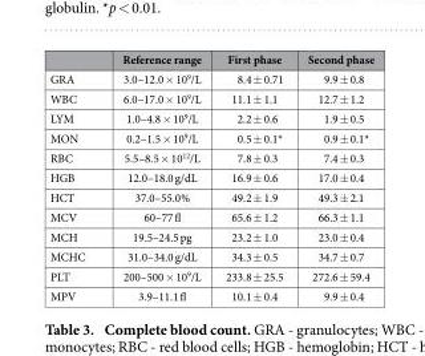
<table><thead><tr><td></td><td>Reference range</td><td>First phase</td><td>Second phase</td></tr></thead><tbody><tr><td>GRA</td><td>3.0–12.0 × 10<sup>9</sup>/L</td><td>8.4 ± 0.71</td><td>9.9 ± 0.8</td></tr><tr><td>WBC</td><td>6.0–17.0 × 10<sup>9</sup>/L</td><td>11.1 ± 1.1</td><td>12.7 ± 1.2</td></tr><tr><td>LYM</td><td>1.0–4.8 × 10<sup>9</sup>/L</td><td>2.2 ± 0.6</td><td>1.9 ± 0.5</td></tr><tr><td>MON</td><td>0.2–1.5 × 10<sup>9</sup>/L</td><td>0.5 ± 0.1*</td><td>0.9 ± 0.1*</td></tr><tr><td>RBC</td><td>5.5–8.5 × 10<sup>12</sup>/L</td><td>7.8 ± 0.3</td><td>7.4 ± 0.3</td></tr><tr><td>HGB</td><td>12.0–18.0 g/dL</td><td>16.9 ± 0.6</td><td>17.0 ± 0.4</td></tr><tr><td>HCT</td><td>37.0–55.0%</td><td>49.2 ± 1.9</td><td>49.3 ± 2.1</td></tr><tr><td>MCV</td><td>60–77 fl</td><td>65.6 ± 1.2</td><td>66.3 ± 1.1</td></tr><tr><td>MCH</td><td>19.5–24.5 pg</td><td>23.2 ± 1.0</td><td>23.0 ± 0.4</td></tr><tr><td>MCHC</td><td>31.0–34.0 g/dL</td><td>34.3 ± 0.5</td><td>34.7 ± 0.7</td></tr><tr><td>PLT</td><td>200–500 × 10<sup>9</sup>/L</td><td>233.8 ± 25.5</td><td>272.6 ± 59.4</td></tr><tr><td>MPV</td><td>3.9–11.1 fl</td><td>10.1 ± 0.4</td><td>9.9 ± 0.4</td></tr></tbody></table>